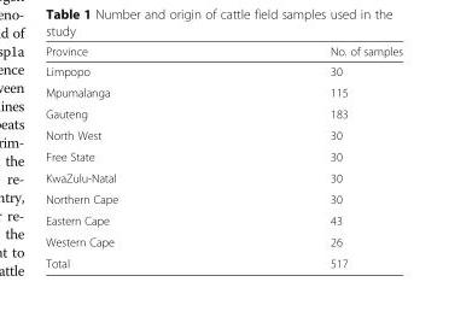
<table><thead><tr><td>Province</td><td>No. of samples</td></tr></thead><tbody><tr><td>Limpopo</td><td>30</td></tr><tr><td>Mpumalanga</td><td>115</td></tr><tr><td>Gauteng</td><td>183</td></tr><tr><td>North West</td><td>30</td></tr><tr><td>Free State</td><td>30</td></tr><tr><td>KwaZulu-Natal</td><td>30</td></tr><tr><td>Northern Cape</td><td>30</td></tr><tr><td>Eastern Cape</td><td>43</td></tr><tr><td>Western Cape</td><td>26</td></tr><tr><td>Total</td><td>517</td></tr></tbody></table>